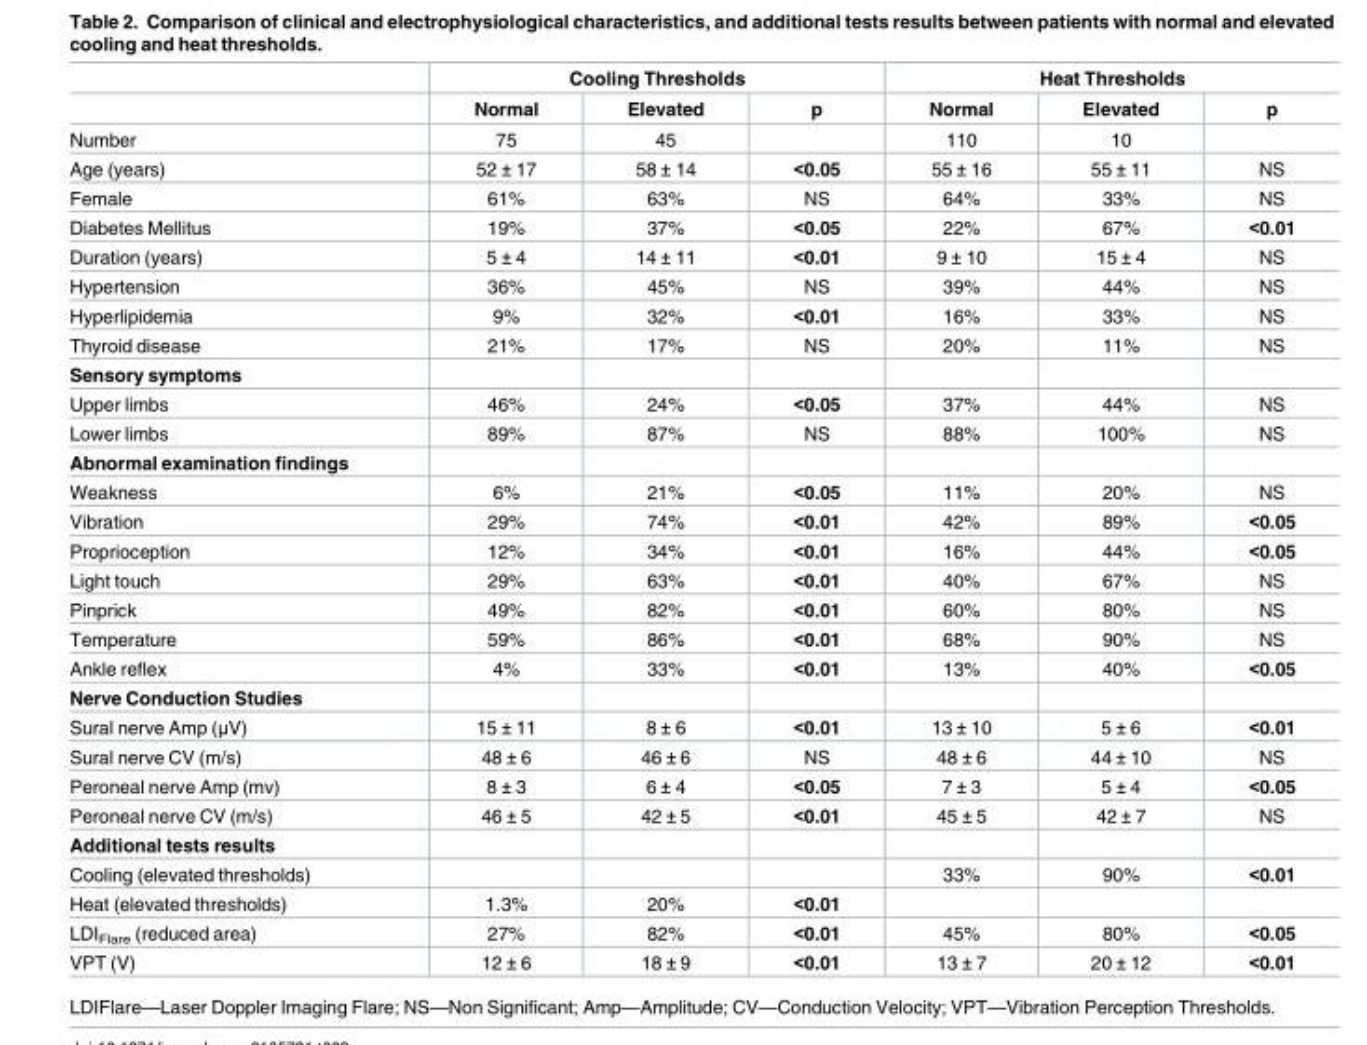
<table><thead><tr><td rowspan="2"></td><td colspan="3">Cooling Thresholds</td><td colspan="3">Heat Thresholds</td></tr><tr><td>Normal</td><td>Elevated</td><td>p</td><td>Normal</td><td>Elevated</td><td>p</td></tr></thead><tbody><tr><td>Number</td><td>75</td><td>45</td><td></td><td>110</td><td>10</td><td></td></tr><tr><td>Age (years)</td><td>52 ± 17</td><td>58 ± 14</td><td>&lt;0.05</td><td>55 ± 16</td><td>55 ± 11</td><td>NS</td></tr><tr><td>Female</td><td>61%</td><td>63%</td><td>NS</td><td>64%</td><td>33%</td><td>NS</td></tr><tr><td>Diabetes Mellitus</td><td>19%</td><td>37%</td><td>&lt;0.05</td><td>22%</td><td>67%</td><td>&lt;0.01</td></tr><tr><td>Duration (years)</td><td>5 ± 4</td><td>14 ± 11</td><td>&lt;0.01</td><td>9 ± 10</td><td>15 ± 4</td><td>NS</td></tr><tr><td>Hypertension</td><td>36%</td><td>45%</td><td>NS</td><td>39%</td><td>44%</td><td>NS</td></tr><tr><td>Hyperlipidemia</td><td>9%</td><td>32%</td><td>&lt;0.01</td><td>16%</td><td>33%</td><td>NS</td></tr><tr><td>Thyroid disease</td><td>21%</td><td>17%</td><td>NS</td><td>20%</td><td>11%</td><td>NS</td></tr><tr><td colspan="7">Sensory symptoms</td></tr><tr><td>Upper limbs</td><td>46%</td><td>24%</td><td>&lt;0.05</td><td>37%</td><td>44%</td><td>NS</td></tr><tr><td>Lower limbs</td><td>89%</td><td>87%</td><td>NS</td><td>88%</td><td>100%</td><td>NS</td></tr><tr><td colspan="7">Abnormal examination findings</td></tr><tr><td>Weakness</td><td>6%</td><td>21%</td><td>&lt;0.05</td><td>11%</td><td>20%</td><td>NS</td></tr><tr><td>Vibration</td><td>29%</td><td>74%</td><td>&lt;0.01</td><td>42%</td><td>89%</td><td>&lt;0.05</td></tr><tr><td>Proprioception</td><td>12%</td><td>34%</td><td>&lt;0.01</td><td>16%</td><td>44%</td><td>&lt;0.05</td></tr><tr><td>Light touch</td><td>29%</td><td>63%</td><td>&lt;0.01</td><td>40%</td><td>67%</td><td>NS</td></tr><tr><td>Pinprick</td><td>49%</td><td>82%</td><td>&lt;0.01</td><td>60%</td><td>80%</td><td>NS</td></tr><tr><td>Temperature</td><td>59%</td><td>86%</td><td>&lt;0.01</td><td>68%</td><td>90%</td><td>NS</td></tr><tr><td>Ankle reflex</td><td>4%</td><td>33%</td><td>&lt;0.01</td><td>13%</td><td>40%</td><td>&lt;0.05</td></tr><tr><td colspan="7">Nerve Conduction Studies</td></tr><tr><td>Sural nerve Amp (μV)</td><td>15 ± 11</td><td>8 ± 6</td><td>&lt;0.01</td><td>13 ± 10</td><td>5 ± 6</td><td>&lt;0.01</td></tr><tr><td>Sural nerve CV (m/s)</td><td>48 ± 6</td><td>46 ± 6</td><td>NS</td><td>48 ± 6</td><td>44 ± 10</td><td>NS</td></tr><tr><td>Peroneal nerve Amp (mv)</td><td>8 ± 3</td><td>6 ± 4</td><td>&lt;0.05</td><td>7 ± 3</td><td>5 ± 4</td><td>&lt;0.05</td></tr><tr><td>Peroneal nerve CV (m/s)</td><td>46 ± 5</td><td>42 ± 5</td><td>&lt;0.01</td><td>45 ± 5</td><td>42 ± 7</td><td>NS</td></tr><tr><td colspan="7">Additional tests results</td></tr><tr><td>Cooling (elevated thresholds)</td><td></td><td></td><td></td><td>33%</td><td>90%</td><td>&lt;0.01</td></tr><tr><td>Heat (elevated thresholds)</td><td>1.3%</td><td>20%</td><td>&lt;0.01</td><td></td><td></td><td></td></tr><tr><td>LDI<sub>Flare</sub> (reduced area)</td><td>27%</td><td>82%</td><td>&lt;0.01</td><td>45%</td><td>80%</td><td>&lt;0.05</td></tr><tr><td>VPT (V)</td><td>12 ± 6</td><td>18 ± 9</td><td>&lt;0.01</td><td>13 ± 7</td><td>20 ± 12</td><td>&lt;0.01</td></tr></tbody></table>